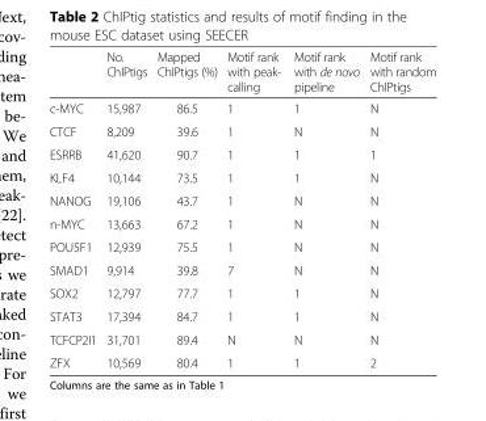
<table><thead><tr><td></td><td>No. ChIPtigs</td><td>Mapped ChIPtigs (%)</td><td>Motif rank with peak- calling</td><td>Motif rank with de novo pipeline</td><td>Motif rank with random ChIPtigs</td></tr></thead><tbody><tr><td>c-MYC</td><td>15,987</td><td>86.5</td><td>1</td><td>1</td><td>N</td></tr><tr><td>CTCF</td><td>8,209</td><td>39.6</td><td>1</td><td>N</td><td>N</td></tr><tr><td>ESRRB</td><td>41,620</td><td>90.7</td><td>1</td><td>1</td><td>1</td></tr><tr><td>KLF4</td><td>10,144</td><td>73.5</td><td>1</td><td>1</td><td>N</td></tr><tr><td>NANOG</td><td>19,106</td><td>43.7</td><td>1</td><td>N</td><td>N</td></tr><tr><td>n-MYC</td><td>13,663</td><td>67.2</td><td>1</td><td>N</td><td>N</td></tr><tr><td>POU5F1</td><td>12,939</td><td>75.5</td><td>1</td><td>N</td><td>N</td></tr><tr><td>SMAD1</td><td>9,914</td><td>39.8</td><td>7</td><td>N</td><td>N</td></tr><tr><td>SOX2</td><td>12,797</td><td>77.7</td><td>1</td><td>1</td><td>N</td></tr><tr><td>STAT3</td><td>17,394</td><td>84.7</td><td>1</td><td>1</td><td>N</td></tr><tr><td>TCFCP2I1</td><td>31,701</td><td>89.4</td><td>N</td><td>N</td><td>N</td></tr><tr><td>ZFX</td><td>10,569</td><td>80.4</td><td>1</td><td>1</td><td>2</td></tr></tbody></table>